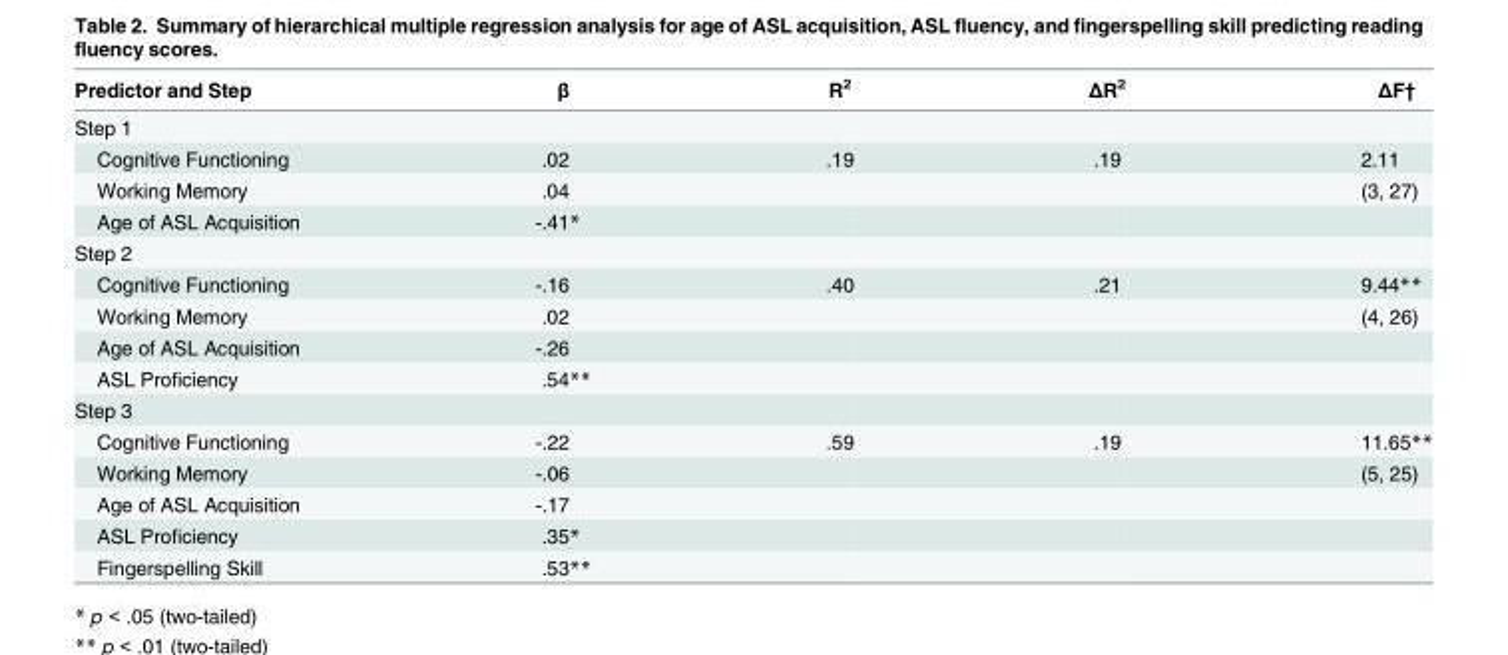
<table><thead><tr><td>Predictor and Step</td><td>β</td><td>R<sup>2</sup></td><td>ΔR2</td><td>ΔF†</td></tr></thead><tbody><tr><td colspan="5">Step 1</td></tr><tr><td>Cognitive Functioning</td><td>.02</td><td>.19</td><td>.19</td><td>2.11</td></tr><tr><td>Working Memory</td><td>.04</td><td></td><td></td><td>(3, 27)</td></tr><tr><td>Age of ASL Acquisition</td><td>-.41*</td><td></td><td></td><td></td></tr><tr><td colspan="5">Step 2</td></tr><tr><td>Cognitive Functioning</td><td>-.16</td><td>.40</td><td>.21</td><td>9.44**</td></tr><tr><td>Working Memory</td><td>.02</td><td></td><td></td><td>(4, 26)</td></tr><tr><td>Age of ASL Acquisition</td><td>-.26</td><td></td><td></td><td></td></tr><tr><td>ASL Proficiency</td><td>.54**</td><td></td><td></td><td></td></tr><tr><td colspan="5">Step 3</td></tr><tr><td>Cognitive Functioning</td><td>-.22</td><td>.59</td><td>.19</td><td>11.65**</td></tr><tr><td>Working Memory</td><td>-.06</td><td></td><td></td><td>(5, 25)</td></tr><tr><td>Age of ASL Acquisition</td><td>-.17</td><td></td><td></td><td></td></tr><tr><td>ASL Proficiency</td><td>.35*</td><td></td><td></td><td></td></tr><tr><td>Fingerspelling Skill</td><td>.53**</td><td></td><td></td><td></td></tr></tbody></table>